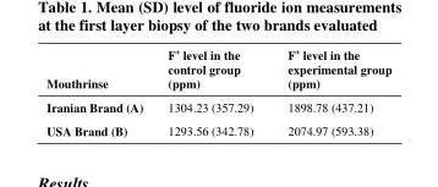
<table><tbody><tr><td>Mouthrinse</td><td>F<sup>+</sup> level in the control group (ppm)</td><td>F<sup>+</sup> level in the experimental group (ppm)</td></tr><tr><td>Iranian Brand (A)</td><td>1304.23 (357.29)</td><td>1898.78 (437.21)</td></tr><tr><td>USA Brand (B)</td><td>1293.56 (342.78)</td><td>2074.97 (593.38)</td></tr></tbody></table>